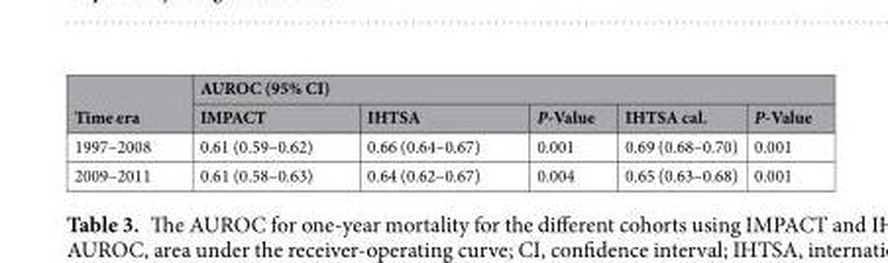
<table><thead><tr><td rowspan="2">Time era</td><td colspan="5">AUROC (95% CI)</td></tr><tr><td>IMPACT</td><td>IHTSA</td><td>P-Value</td><td>IHTSA cal.</td><td>P-Value</td></tr></thead><tbody><tr><td>1997–2008</td><td>0.61 (0.59–0.62)</td><td>0.66 (0.64–0.67)</td><td>0.001</td><td>0.69 (0.68–0.70)</td><td>0.001</td></tr><tr><td>2009–2011</td><td>0.61 (0.58–0.63)</td><td>0.64 (0.62–0.67)</td><td>0.004</td><td>0.65 (0.63–0.68)</td><td>0.001</td></tr></tbody></table>